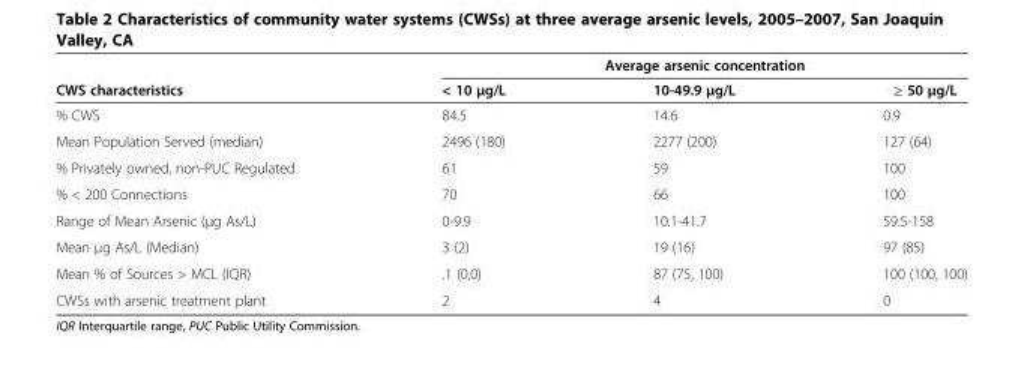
<table><thead><tr><td rowspan="2">CWS characteristics</td><td colspan="3">Average arsenic concentration</td></tr><tr><td>&lt; 10 μg/L</td><td>10-49.9 μg/L</td><td>≥ 50 μg/L</td></tr></thead><tbody><tr><td>% CWS</td><td>84.5</td><td>14.6</td><td>0.9</td></tr><tr><td>Mean Population Served (median)</td><td>2496 (180)</td><td>2277 (200)</td><td>127 (64)</td></tr><tr><td>% Privately owned, non-PUC Regulated</td><td>61</td><td>59</td><td>100</td></tr><tr><td>% &lt; 200 Connections</td><td>70</td><td>66</td><td>100</td></tr><tr><td>Range of Mean Arsenic (μg As/L)</td><td>0-9.9</td><td>10.1-41.7</td><td>59.5-158</td></tr><tr><td>Mean μg As/L (Median)</td><td>3 (2)</td><td>19 (16)</td><td>97 (85)</td></tr><tr><td>Mean % of Sources &gt; MCL (IQR)</td><td>.1 (0,0)</td><td>87 (75, 100)</td><td>100 (100, 100)</td></tr><tr><td>CWSs with arsenic treatment plant</td><td>2</td><td>4</td><td>0</td></tr></tbody></table>